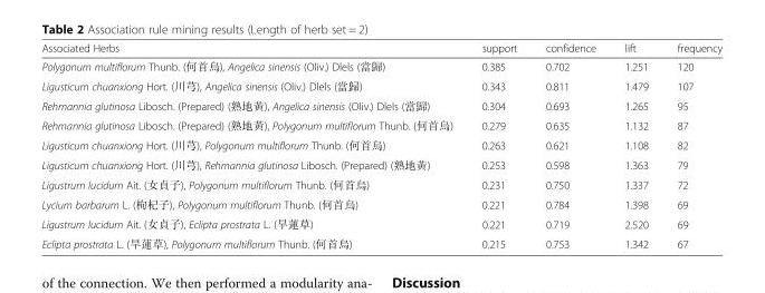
<table><thead><tr><td>Associated Herbs</td><td>support</td><td>confidence</td><td>lift</td><td>frequency</td></tr></thead><tbody><tr><td>Polygonum multiflorum Thunb. (何首烏), Angelica sinensis (Oliv.) Dlels (當歸)</td><td>0.385</td><td>0.702</td><td>1.251</td><td>120</td></tr><tr><td>Ligusticum chuanxiong Hort. (川芎), Angelica sinensis (Oliv.) Dlels (當歸)</td><td>0.343</td><td>0.811</td><td>1.479</td><td>107</td></tr><tr><td>Rehmannia glutinosa Libosch. (Prepared) (熟地黃), Angelica sinensis (Oliv.) Dlels (當歸)</td><td>0.304</td><td>0.693</td><td>1.265</td><td>95</td></tr><tr><td>Rehmannia glutinosa Libosch. (Prepared) (熟地黃), Polygonum multiflorum Thunb. (何首烏)</td><td>0.279</td><td>0.635</td><td>1.132</td><td>87</td></tr><tr><td>Ligusticum chuanxiong Hort. (川芎), Polygonum multiflorum Thunb. (何首烏)</td><td>0.263</td><td>0.621</td><td>1.108</td><td>82</td></tr><tr><td>Ligusticum chuanxiong Hort. (川芎), Rehmannia glutinosa Libosch. (Prepared) (熟地黃)</td><td>0.253</td><td>0.598</td><td>1.363</td><td>79</td></tr><tr><td>Ligustrum lucidum Ait. (女貞子), Polygonum multiflorum Thunb. (何首烏)</td><td>0.231</td><td>0.750</td><td>1.337</td><td>72</td></tr><tr><td>Lycium barbarum L. (枸杞子), Polygonum multiflorum Thunb. (何首烏)</td><td>0.221</td><td>0.784</td><td>1.398</td><td>69</td></tr><tr><td>Ligustrum lucidum Ait. (女貞子), Eclipta prostrata L. (旱蓮草)</td><td>0.221</td><td>0.719</td><td>2.520</td><td>69</td></tr><tr><td>Eclipta prostrata L. (旱蓮草), Polygonum multiflorum Thunb. (何首烏)</td><td>0.215</td><td>0.753</td><td>1.342</td><td>67</td></tr></tbody></table>